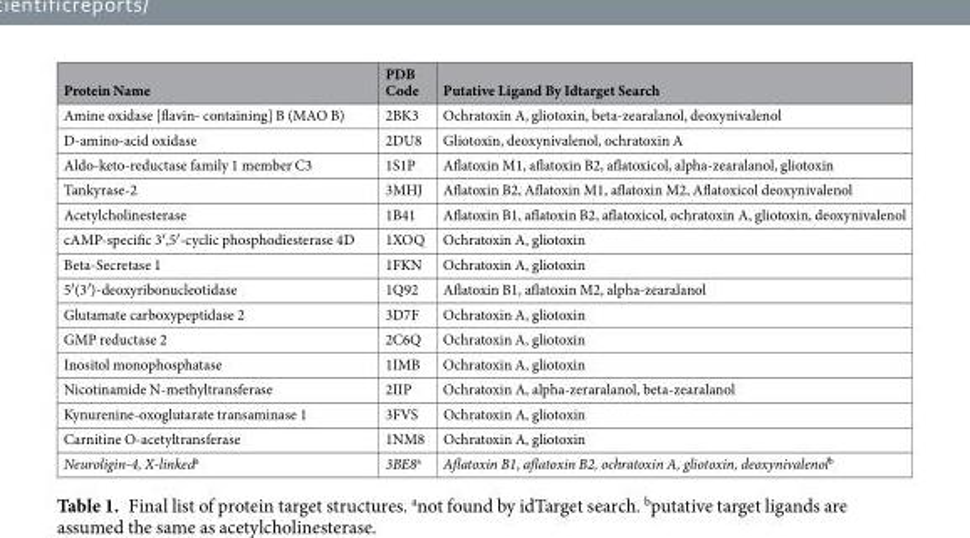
<table><thead><tr><td>Protein Name</td><td>PDB Code</td><td>Putative Ligand By Idtarget Search</td></tr></thead><tbody><tr><td>Amine oxidase [flavin- containing] B (MAO B)</td><td>2BK3</td><td>Ochratoxin A, gliotoxin, beta-zearalanol, deoxynivalenol</td></tr><tr><td>D-amino-acid oxidase</td><td>2DU8</td><td>Gliotoxin, deoxynivalenol, ochratoxin A</td></tr><tr><td>Aldo-keto-reductase family 1 member C3</td><td>1S1P</td><td>Aflatoxin M1, aflatoxin B2, aflatoxicol, alpha-zearalanol, gliotoxin</td></tr><tr><td>Tankyrase-2</td><td>3MHJ</td><td>Aflatoxin B2, Aflatoxin M1, aflatoxin M2, Aflatoxicol deoxynivalenol</td></tr><tr><td>Acetylcholinesterase</td><td>1B41</td><td>Aflatoxin B1, aflatoxin B2, aflatoxicol, ochratoxin A, gliotoxin, deoxynivalenol</td></tr><tr><td>cAMP-specific 3′,5′-cyclic phosphodiesterase 4D</td><td>1XOQ</td><td>Ochratoxin A, gliotoxin</td></tr><tr><td>Beta-Secretase 1</td><td>1FKN</td><td>Ochratoxin A, gliotoxin</td></tr><tr><td>5′(3′)-deoxyribonucleotidase</td><td>1Q92</td><td>Aflatoxin B1, aflatoxin M2, alpha-zearalanol</td></tr><tr><td>Glutamate carboxypeptidase 2</td><td>3D7F</td><td>Ochratoxin A, gliotoxin</td></tr><tr><td>GMP reductase 2</td><td>2C6Q</td><td>Ochratoxin A, gliotoxin</td></tr><tr><td>Inositol monophosphatase</td><td>1IMB</td><td>Ochratoxin A, gliotoxin</td></tr><tr><td>Nicotinamide N-methyltransferase</td><td>2IIP</td><td>Ochratoxin A, alpha-zeraralanol, beta-zearalanol</td></tr><tr><td>Kynurenine-oxoglutarate transaminase 1</td><td>3FVS</td><td>Ochratoxin A, gliotoxin</td></tr><tr><td>Carnitine O-acetyltransferase</td><td>1NM8</td><td>Ochratoxin A, gliotoxin</td></tr><tr><td>Neuroligin-4, X-linked<sup>a</sup></td><td>3BE8<sup>a</sup></td><td>Aflatoxin B1, aflatoxin B2, ochratoxin A, gliotoxin, deoxynivalenol<sup>b</sup></td></tr></tbody></table>